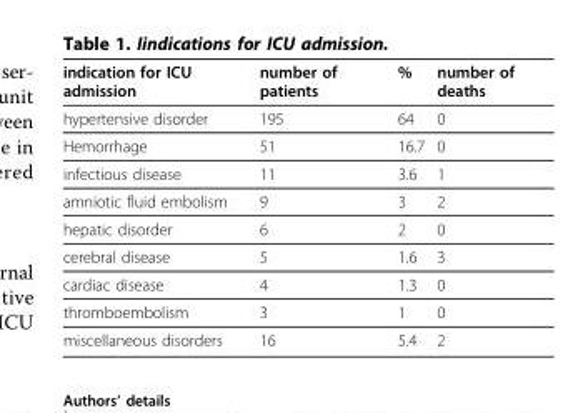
<table><thead><tr><td>indication for ICU admission</td><td>number of patients</td><td>%</td><td>number of deaths</td></tr></thead><tbody><tr><td>hypertensive disorder</td><td>195</td><td>64</td><td>0</td></tr><tr><td>Hemorrhage</td><td>51</td><td>16.7</td><td>0</td></tr><tr><td>infectious disease</td><td>11</td><td>3.6</td><td>1</td></tr><tr><td>amniotic fluid embolism</td><td>9</td><td>3</td><td>2</td></tr><tr><td>hepatic disorder</td><td>6</td><td>2</td><td>0</td></tr><tr><td>cerebral disease</td><td>5</td><td>1.6</td><td>3</td></tr><tr><td>cardiac disease</td><td>4</td><td>1.3</td><td>0</td></tr><tr><td>thromboembolism</td><td>3</td><td>1</td><td>0</td></tr><tr><td>miscellaneous disorders</td><td>16</td><td>5.4</td><td>2</td></tr></tbody></table>